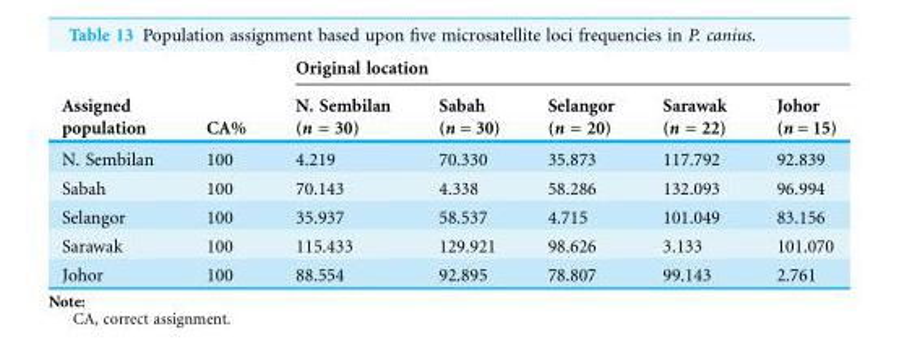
<table><thead><tr><td rowspan="2">Assigned population</td><td rowspan="2">CA%</td><td colspan="5">Original location</td></tr><tr><td>N. Sembilan (n = 30)</td><td>Sabah (n = 30)</td><td>Selangor (n = 20)</td><td>Sarawak (n = 22)</td><td>Johor (n = 15)</td></tr></thead><tbody><tr><td>N. Sembilan</td><td>100</td><td>4.219</td><td>70.330</td><td>35.873</td><td>117.792</td><td>92.839</td></tr><tr><td>Sabah</td><td>100</td><td>70.143</td><td>4.338</td><td>58.286</td><td>132.093</td><td>96.994</td></tr><tr><td>Selangor</td><td>100</td><td>35.937</td><td>58.537</td><td>4.715</td><td>101.049</td><td>83.156</td></tr><tr><td>Sarawak</td><td>100</td><td>115.433</td><td>129.921</td><td>98.626</td><td>3.133</td><td>101.070</td></tr><tr><td>Johor</td><td>100</td><td>88.554</td><td>92.895</td><td>78.807</td><td>99.143</td><td>2.761</td></tr></tbody></table>